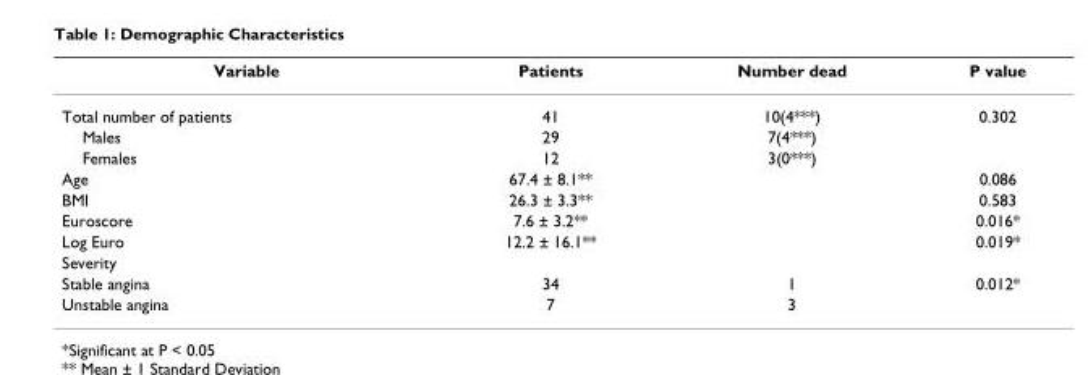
<table><thead><tr><td>Variable</td><td>Patients</td><td>Number dead</td><td>P value</td></tr></thead><tbody><tr><td>Total number of patients</td><td>41</td><td>10(4***)</td><td>0.302</td></tr><tr><td>Males</td><td>29</td><td>7(4***)</td><td></td></tr><tr><td>Females</td><td>12</td><td>3(0***)</td><td></td></tr><tr><td>Age</td><td>67.4 ± 8.1**</td><td></td><td>0.086</td></tr><tr><td>BMI</td><td>26.3 ± 3.3**</td><td></td><td>0.583</td></tr><tr><td>Euroscore</td><td>7.6 ± 3.2**</td><td></td><td>0.016*</td></tr><tr><td>Log Euro</td><td>12.2 ± 16.1**</td><td></td><td>0.019*</td></tr><tr><td colspan="4">Severity</td></tr><tr><td>Stable angina</td><td>34</td><td>1</td><td>0.012*</td></tr><tr><td>Unstable angina</td><td>7</td><td>3</td><td></td></tr></tbody></table>